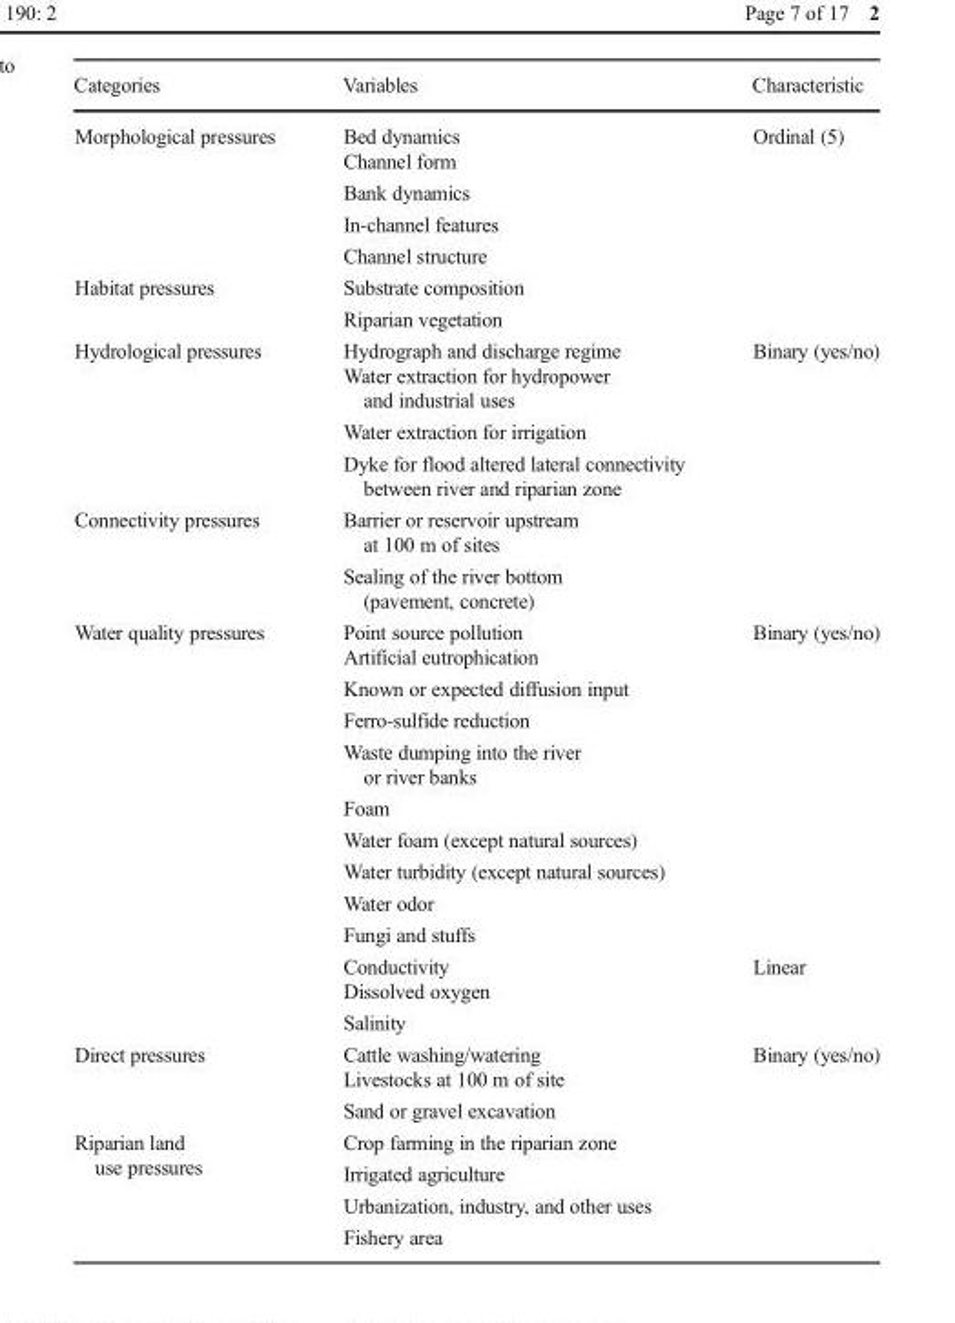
<table><thead><tr><td>Categories</td><td>Variables</td><td>Characteristic</td></tr></thead><tbody><tr><td rowspan="5">Morphological pressures</td><td>Bed dynamics</td><td rowspan="7">Ordinal (5)</td></tr><tr><td>Channel form</td></tr><tr><td>Bank dynamics</td></tr><tr><td>In-channel features</td></tr><tr><td>Channel structure</td></tr><tr><td rowspan="2">Habitat pressures</td><td>Substrate composition</td></tr><tr><td>Riparian vegetation</td></tr><tr><td rowspan="4">Hydrological pressures</td><td>Hydrograph and discharge regime</td><td rowspan="6">Binary (yes/no)</td></tr><tr><td>Water extraction for hydropower and industrial uses</td></tr><tr><td>Water extraction for irrigation</td></tr><tr><td>Dyke for flood altered lateral connectivity between river and riparian zone</td></tr><tr><td rowspan="2">Connectivity pressures</td><td>Barrier or reservoir upstream at 100 m of sites</td></tr><tr><td>Sealing of the river bottom (pavement, concrete)</td></tr><tr><td rowspan="13">Water quality pressures</td><td>Point source pollution</td><td rowspan="10">Binary (yes/no)</td></tr><tr><td>Artificial eutrophication</td></tr><tr><td>Known or expected diffusion input</td></tr><tr><td>Ferro-sulfide reduction</td></tr><tr><td>Waste dumping into the river or river banks</td></tr><tr><td>Foam</td></tr><tr><td>Water foam (except natural sources)</td></tr><tr><td>Water turbidity (except natural sources)</td></tr><tr><td>Water odor</td></tr><tr><td>Fungi and stuffs</td></tr><tr><td>Conductivity</td><td rowspan="3">Linear</td></tr><tr><td>Dissolved oxygen</td></tr><tr><td>Salinity</td></tr><tr><td rowspan="3">Direct pressures</td><td>Cattle washing/watering</td><td rowspan="7">Binary (yes/no)</td></tr><tr><td>Livestocks at 100 m of site</td></tr><tr><td>Sand or gravel excavation</td></tr><tr><td rowspan="4">Riparian land use pressures</td><td>Crop farming in the riparian zone</td></tr><tr><td>Irrigated agriculture</td></tr><tr><td>Urbanization, industry, and other uses</td></tr><tr><td>Fishery area</td></tr></tbody></table>